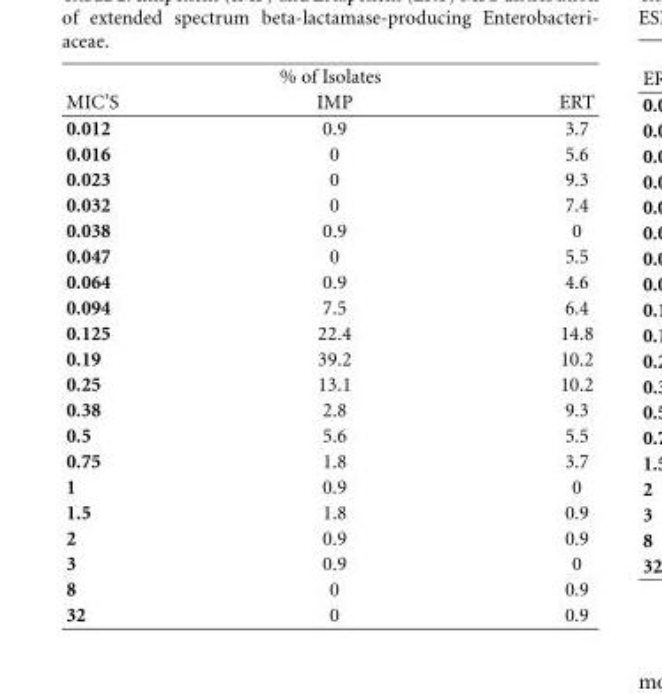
<table><thead><tr><td colspan="3">% of Isolates</td></tr><tr><td>MIC’S</td><td>IMP</td><td>ERT</td></tr></thead><tbody><tr><td>0.012</td><td>0.9</td><td>3.7</td></tr><tr><td>0.016</td><td>0</td><td>5.6</td></tr><tr><td>0.023</td><td>0</td><td>9.3</td></tr><tr><td>0.032</td><td>0</td><td>7.4</td></tr><tr><td>0.038</td><td>0.9</td><td>0</td></tr><tr><td>0.047</td><td>0</td><td>5.5</td></tr><tr><td>0.064</td><td>0.9</td><td>4.6</td></tr><tr><td>0.094</td><td>7.5</td><td>6.4</td></tr><tr><td>0.125</td><td>22.4</td><td>14.8</td></tr><tr><td>0.19</td><td>39.2</td><td>10.2</td></tr><tr><td>0.25</td><td>13.1</td><td>10.2</td></tr><tr><td>0.38</td><td>2.8</td><td>9.3</td></tr><tr><td>0.5</td><td>5.6</td><td>5.5</td></tr><tr><td>0.75</td><td>1.8</td><td>3.7</td></tr><tr><td>1</td><td>0.9</td><td>0</td></tr><tr><td>1.5</td><td>1.8</td><td>0.9</td></tr><tr><td>2</td><td>0.9</td><td>0.9</td></tr><tr><td>3</td><td>0.9</td><td>0</td></tr><tr><td>8</td><td>0</td><td>0.9</td></tr><tr><td>32</td><td>0</td><td>0.9</td></tr></tbody></table>